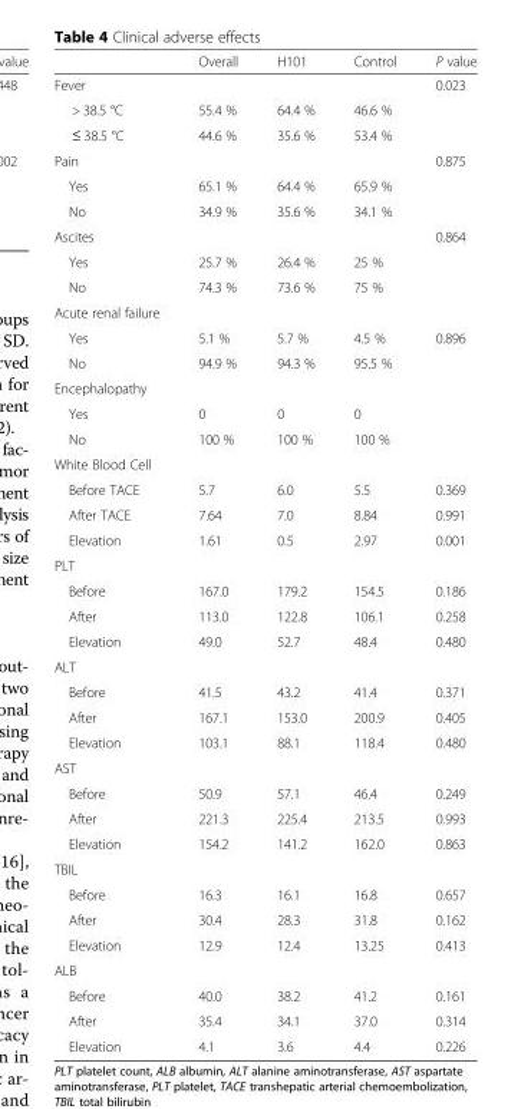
<table><thead><tr><td></td><td>Overall</td><td>H101</td><td>Control</td><td>P value</td></tr></thead><tbody><tr><td>Fever</td><td></td><td></td><td></td><td>0.023</td></tr><tr><td>&gt; 38.5 °C</td><td>55.4 %</td><td>64.4 %</td><td>46.6 %</td><td></td></tr><tr><td>≤ 38.5 °C</td><td>44.6 %</td><td>35.6 %</td><td>53.4 %</td><td></td></tr><tr><td>Pain</td><td></td><td></td><td></td><td>0.875</td></tr><tr><td>Yes</td><td>65.1 %</td><td>64.4 %</td><td>65.9 %</td><td></td></tr><tr><td>No</td><td>34.9 %</td><td>35.6 %</td><td>34.1 %</td><td></td></tr><tr><td>Ascites</td><td></td><td></td><td></td><td>0.864</td></tr><tr><td>Yes</td><td>25.7 %</td><td>26.4 %</td><td>25 %</td><td></td></tr><tr><td>No</td><td>74.3 %</td><td>73.6 %</td><td>75 %</td><td></td></tr><tr><td colspan="5">Acute renal failure</td></tr><tr><td>Yes</td><td>5.1 %</td><td>5.7 %</td><td>4.5 %</td><td>0.896</td></tr><tr><td>No</td><td>94.9 %</td><td>94.3 %</td><td>95.5 %</td><td></td></tr><tr><td colspan="5">Encephalopathy</td></tr><tr><td>Yes</td><td>0</td><td>0</td><td>0</td><td></td></tr><tr><td>No</td><td>100 %</td><td>100 %</td><td>100 %</td><td></td></tr><tr><td colspan="5">White Blood Cell</td></tr><tr><td>Before TACE</td><td>5.7</td><td>6.0</td><td>5.5</td><td>0.369</td></tr><tr><td>After TACE</td><td>7.64</td><td>7.0</td><td>8.84</td><td>0.991</td></tr><tr><td>Elevation</td><td>1.61</td><td>0.5</td><td>2.97</td><td>0.001</td></tr><tr><td colspan="5">PLT</td></tr><tr><td>Before</td><td>167.0</td><td>179.2</td><td>154.5</td><td>0.186</td></tr><tr><td>After</td><td>113.0</td><td>122.8</td><td>106.1</td><td>0.258</td></tr><tr><td>Elevation</td><td>49.0</td><td>52.7</td><td>48.4</td><td>0.480</td></tr><tr><td colspan="5">ALT</td></tr><tr><td>Before</td><td>41.5</td><td>43.2</td><td>41.4</td><td>0.371</td></tr><tr><td>After</td><td>167.1</td><td>153.0</td><td>200.9</td><td>0.405</td></tr><tr><td>Elevation</td><td>103.1</td><td>88.1</td><td>118.4</td><td>0.480</td></tr><tr><td colspan="5">AST</td></tr><tr><td>Before</td><td>50.9</td><td>57.1</td><td>46.4</td><td>0.249</td></tr><tr><td>After</td><td>221.3</td><td>225.4</td><td>213.5</td><td>0.993</td></tr><tr><td>Elevation</td><td>154.2</td><td>141.2</td><td>162.0</td><td>0.863</td></tr><tr><td colspan="5">TBIL</td></tr><tr><td>Before</td><td>16.3</td><td>16.1</td><td>16.8</td><td>0.657</td></tr><tr><td>After</td><td>30.4</td><td>28.3</td><td>31.8</td><td>0.162</td></tr><tr><td>Elevation</td><td>12.9</td><td>12.4</td><td>13.25</td><td>0.413</td></tr><tr><td colspan="5">ALB</td></tr><tr><td>Before</td><td>40.0</td><td>38.2</td><td>41.2</td><td>0.161</td></tr><tr><td>After</td><td>35.4</td><td>34.1</td><td>37.0</td><td>0.314</td></tr><tr><td>Elevation</td><td>4.1</td><td>3.6</td><td>4.4</td><td>0.226</td></tr></tbody></table>